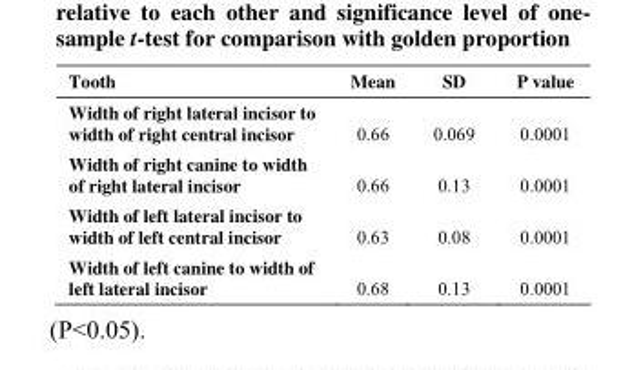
<table><tbody><tr><td>Tooth</td><td>Mean</td><td>SD</td><td>P value</td></tr><tr><td>Width of right lateral incisor to width of right central incisor</td><td>0.66</td><td>0.069</td><td>0.0001</td></tr><tr><td>Width of right canine to width of right lateral incisor</td><td>0.66</td><td>0.13</td><td>0.0001</td></tr><tr><td>Width of left lateral incisor to width of left central incisor</td><td>0.63</td><td>0.08</td><td>0.0001</td></tr><tr><td>Width of left canine to width of left lateral incisor</td><td>0.68</td><td>0.13</td><td>0.0001</td></tr></tbody></table>